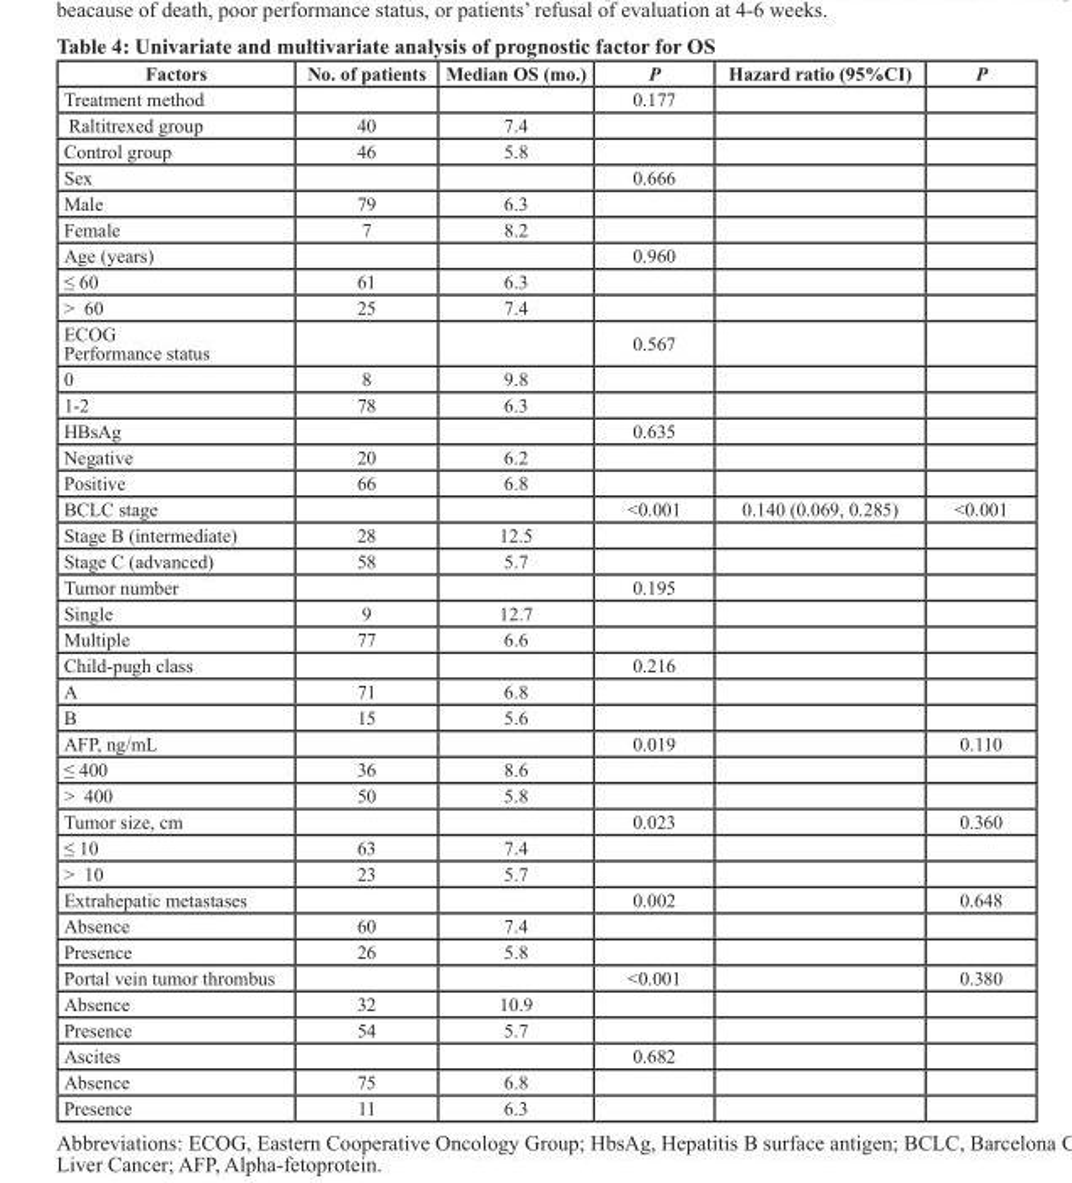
<table><thead><tr><td>Factors</td><td>No. of patients</td><td>Median OS (mo.)</td><td>P</td><td>Hazard ratio (95%CI)</td><td>P</td></tr></thead><tbody><tr><td>Treatment method</td><td></td><td></td><td>0.177</td><td></td><td></td></tr><tr><td>Raltitrexed group</td><td>40</td><td>7.4</td><td></td><td></td><td></td></tr><tr><td>Control group</td><td>46</td><td>5.8</td><td></td><td></td><td></td></tr><tr><td>Sex</td><td></td><td></td><td>0.666</td><td></td><td></td></tr><tr><td>Male</td><td>79</td><td>6.3</td><td></td><td></td><td></td></tr><tr><td>Female</td><td>7</td><td>8.2</td><td></td><td></td><td></td></tr><tr><td>Age (years)</td><td></td><td></td><td>0.960</td><td></td><td></td></tr><tr><td>≤ 60</td><td>61</td><td>6.3</td><td></td><td></td><td></td></tr><tr><td>&gt; 60</td><td>25</td><td>7.4</td><td></td><td></td><td></td></tr><tr><td>ECOG Performance status</td><td></td><td></td><td>0.567</td><td></td><td></td></tr><tr><td>0</td><td>8</td><td>9.8</td><td></td><td></td><td></td></tr><tr><td>1-2</td><td>78</td><td>6.3</td><td></td><td></td><td></td></tr><tr><td>HBsAg</td><td></td><td></td><td>0.635</td><td></td><td></td></tr><tr><td>Negative</td><td>20</td><td>6.2</td><td></td><td></td><td></td></tr><tr><td>Positive</td><td>66</td><td>6.8</td><td></td><td></td><td></td></tr><tr><td>BCLC stage</td><td></td><td></td><td>&lt;0.001</td><td>0.140 (0.069, 0.285)</td><td>&lt;0.001</td></tr><tr><td>Stage B (intermediate)</td><td>28</td><td>12.5</td><td></td><td></td><td></td></tr><tr><td>Stage C (advanced)</td><td>58</td><td>5.7</td><td></td><td></td><td></td></tr><tr><td>Tumor number</td><td></td><td></td><td>0.195</td><td></td><td></td></tr><tr><td>Single</td><td>9</td><td>12.7</td><td></td><td></td><td></td></tr><tr><td>Multiple</td><td>77</td><td>6.6</td><td></td><td></td><td></td></tr><tr><td>Child-pugh class</td><td></td><td></td><td>0.216</td><td></td><td></td></tr><tr><td>A</td><td>71</td><td>6.8</td><td></td><td></td><td></td></tr><tr><td>B</td><td>15</td><td>5.6</td><td></td><td></td><td></td></tr><tr><td>AFP, ng/mL</td><td></td><td></td><td>0.019</td><td></td><td>0.110</td></tr><tr><td>≤ 400</td><td>36</td><td>8.6</td><td></td><td></td><td></td></tr><tr><td>&gt; 400</td><td>50</td><td>5.8</td><td></td><td></td><td></td></tr><tr><td>Tumor size, cm</td><td></td><td></td><td>0.023</td><td></td><td>0.360</td></tr><tr><td>≤ 10</td><td>63</td><td>7.4</td><td></td><td></td><td></td></tr><tr><td>&gt; 10</td><td>23</td><td>5.7</td><td></td><td></td><td></td></tr><tr><td>Extrahepatic metastases</td><td></td><td></td><td>0.002</td><td></td><td>0.648</td></tr><tr><td>Absence</td><td>60</td><td>7.4</td><td></td><td></td><td></td></tr><tr><td>Presence</td><td>26</td><td>5.8</td><td></td><td></td><td></td></tr><tr><td>Portal vein tumor thrombus</td><td></td><td></td><td>&lt;0.001</td><td></td><td>0.380</td></tr><tr><td>Absence</td><td>32</td><td>10.9</td><td></td><td></td><td></td></tr><tr><td>Presence</td><td>54</td><td>5.7</td><td></td><td></td><td></td></tr><tr><td>Ascites</td><td></td><td></td><td>0.682</td><td></td><td></td></tr><tr><td>Absence</td><td>75</td><td>6.8</td><td></td><td></td><td></td></tr><tr><td>Presence</td><td>11</td><td>6.3</td><td></td><td></td><td></td></tr></tbody></table>